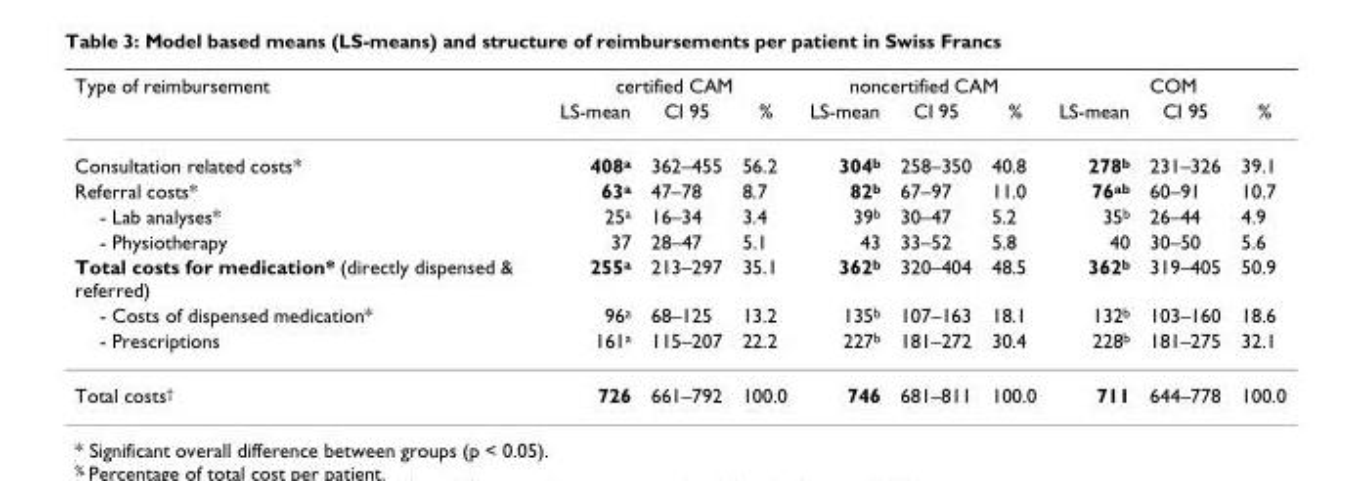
<table><thead><tr><td rowspan="2">Type of reimbursement</td><td colspan="3">certified CAM</td><td colspan="3">noncertified CAM</td><td colspan="3">COM</td></tr><tr><td>LS-mean</td><td>CI 95</td><td>%</td><td>LS-mean</td><td>CI 95</td><td>%</td><td>LS-mean</td><td>CI 95</td><td>%</td></tr></thead><tbody><tr><td>Consultation related costs*</td><td>408a</td><td>362–455</td><td>56.2</td><td>304b</td><td>258–350</td><td>40.8</td><td>278b</td><td>231–326</td><td>39.1</td></tr><tr><td>Referral costs*</td><td>63a</td><td>47–78</td><td>8.7</td><td>82b</td><td>67–97</td><td>11.0</td><td>76ab</td><td>60–91</td><td>10.7</td></tr><tr><td>- Lab analyses*</td><td>25a</td><td>16–34</td><td>3.4</td><td>39b</td><td>30–47</td><td>5.2</td><td>35b</td><td>26–44</td><td>4.9</td></tr><tr><td>- Physiotherapy</td><td>37</td><td>28–47</td><td>5.1</td><td>43</td><td>33–52</td><td>5.8</td><td>40</td><td>30–50</td><td>5.6</td></tr><tr><td>Total costs for medication* (directly dispensed &amp; referred)</td><td>255a</td><td>213–297</td><td>35.1</td><td>362b</td><td>320–404</td><td>48.5</td><td>362b</td><td>319–405</td><td>50.9</td></tr><tr><td>- Costs of dispensed medication*</td><td>96a</td><td>68–125</td><td>13.2</td><td>135b</td><td>107–163</td><td>18.1</td><td>132b</td><td>103–160</td><td>18.6</td></tr><tr><td>- Prescriptions</td><td>161a</td><td>115–207</td><td>22.2</td><td>227b</td><td>181–272</td><td>30.4</td><td>228b</td><td>181–275</td><td>32.1</td></tr><tr><td>Total costs†</td><td>726</td><td>661–792</td><td>100.0</td><td>746</td><td>681–811</td><td>100.0</td><td>711</td><td>644–778</td><td>100.0</td></tr></tbody></table>